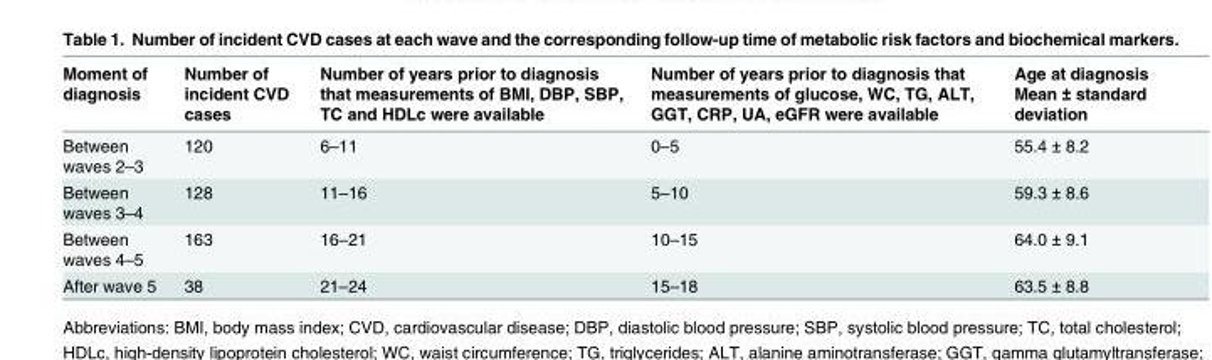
<table><thead><tr><td>Moment of diagnosis</td><td>Number of incident CVD cases</td><td>Number of years prior to diagnosis that measurements of BMI, DBP, SBP, TC and HDLc were available</td><td>Number of years prior to diagnosis that measurements of glucose, WC, TG, ALT, GGT, CRP, UA, eGFR were available</td><td>Age at diagnosis Mean ± standard deviation</td></tr></thead><tbody><tr><td>Between waves 2–3</td><td>120</td><td>6–11</td><td>0–5</td><td>55.4 ± 8.2</td></tr><tr><td>Between waves 3–4</td><td>128</td><td>11–16</td><td>5–10</td><td>59.3 ± 8.6</td></tr><tr><td>Between waves 4–5</td><td>163</td><td>16–21</td><td>10–15</td><td>64.0 ± 9.1</td></tr><tr><td>After wave 5</td><td>38</td><td>21–24</td><td>15–18</td><td>63.5 ± 8.8</td></tr></tbody></table>